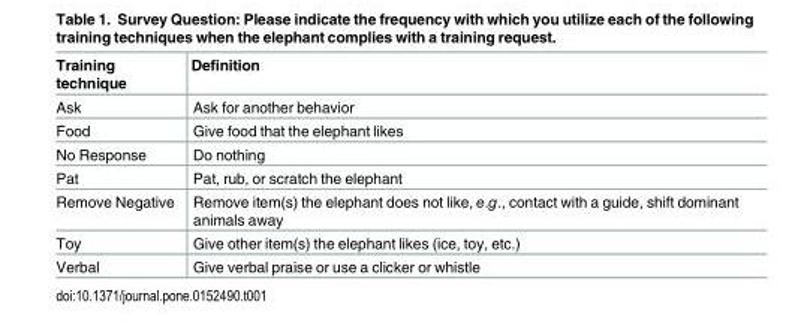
<table><thead><tr><td>Training technique</td><td>Definition</td></tr></thead><tbody><tr><td>Ask</td><td>Ask for another behavior</td></tr><tr><td>Food</td><td>Give food that the elephant likes</td></tr><tr><td>No Response</td><td>Do nothing</td></tr><tr><td>Pat</td><td>Pat, rub, or scratch the elephant</td></tr><tr><td>Remove Negative</td><td>Remove item(s) the elephant does not like, e.g., contact with a guide, shift dominant animals away</td></tr><tr><td>Toy</td><td>Give other item(s) the elephant likes (ice, toy, etc.)</td></tr><tr><td>Verbal</td><td>Give verbal praise or use a clicker or whistle</td></tr></tbody></table>